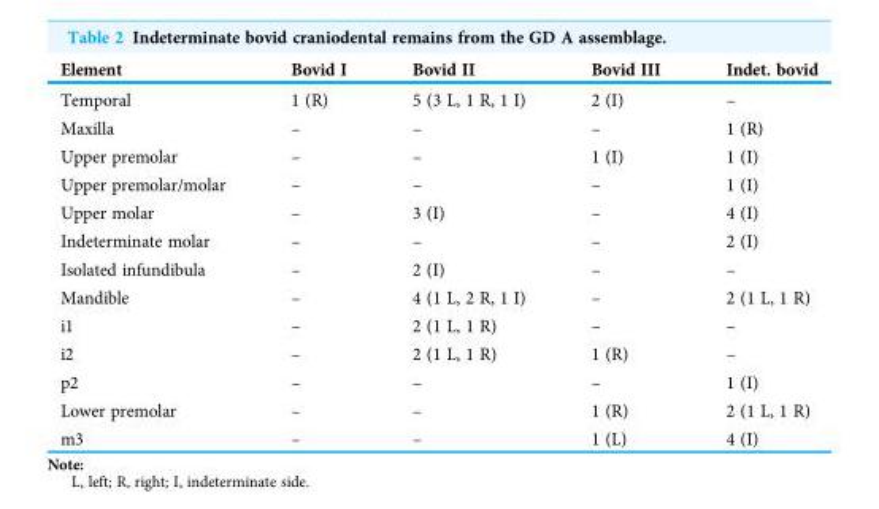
<table><thead><tr><td>Element</td><td>Bovid I</td><td>Bovid II</td><td>Bovid III</td><td>Indet. bovid</td></tr></thead><tbody><tr><td>Temporal</td><td>1 (R)</td><td>5 (3 L, 1 R, 1 I)</td><td>2 (I)</td><td>–</td></tr><tr><td>Maxilla</td><td>–</td><td>–</td><td>–</td><td>1 (R)</td></tr><tr><td>Upper premolar</td><td>–</td><td>–</td><td>1 (I)</td><td>1 (I)</td></tr><tr><td>Upper premolar/molar</td><td>–</td><td>–</td><td>–</td><td>1 (I)</td></tr><tr><td>Upper molar</td><td>–</td><td>3 (I)</td><td>–</td><td>4 (I)</td></tr><tr><td>Indeterminate molar</td><td>–</td><td>–</td><td>–</td><td>2 (I)</td></tr><tr><td>Isolated infundibula</td><td>–</td><td>2 (I)</td><td>–</td><td>–</td></tr><tr><td>Mandible</td><td>–</td><td>4 (1 L, 2 R, 1 I)</td><td>–</td><td>2 (1 L, 1 R)</td></tr><tr><td>i1</td><td>–</td><td>2 (1 L, 1 R)</td><td>–</td><td>–</td></tr><tr><td>i2</td><td>–</td><td>2 (1 L, 1 R)</td><td>1 (R)</td><td>–</td></tr><tr><td>p2</td><td>–</td><td>–</td><td>–</td><td>1 (I)</td></tr><tr><td>Lower premolar</td><td>–</td><td>–</td><td>1 (R)</td><td>2 (1 L, 1 R)</td></tr><tr><td>m3</td><td>–</td><td>–</td><td>1 (L)</td><td>4 (I)</td></tr></tbody></table>